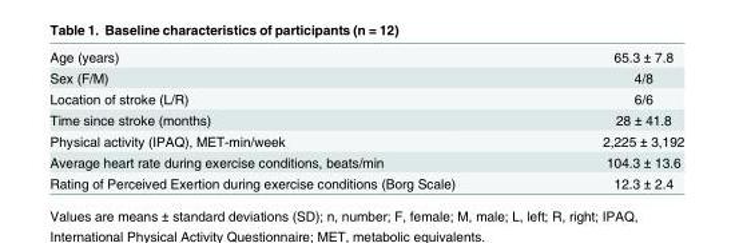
<table><tbody><tr><td>Age (years)</td><td>65.3 ± 7.8</td></tr><tr><td>Sex (F/M)</td><td>4/8</td></tr><tr><td>Location of stroke (L/R)</td><td>6/6</td></tr><tr><td>Time since stroke (months)</td><td>28 ± 41.8</td></tr><tr><td>Physical activity (IPAQ), MET-min/week</td><td>2,225 ± 3,192</td></tr><tr><td>Average heart rate during exercise conditions, beats/min</td><td>104.3 ± 13.6</td></tr><tr><td>Rating of Perceived Exertion during exercise conditions (Borg Scale)</td><td>12.3 ± 2.4</td></tr></tbody></table>